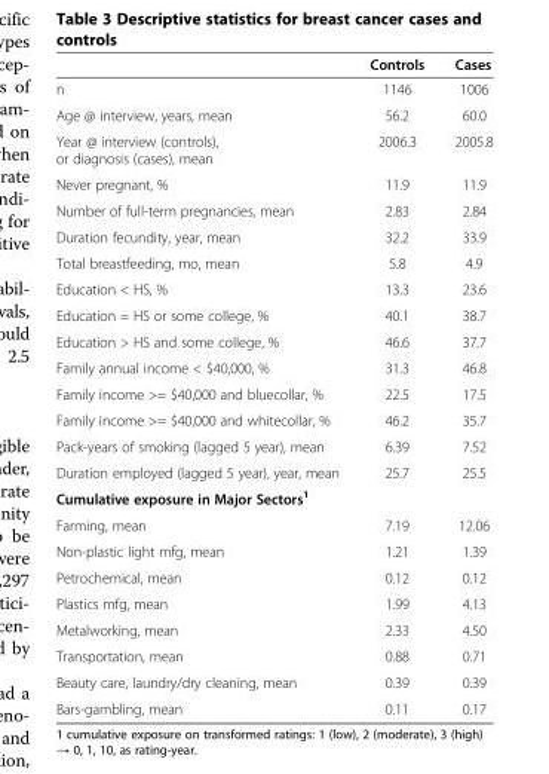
<table><thead><tr><td></td><td>Controls</td><td>Cases</td></tr></thead><tbody><tr><td>n</td><td>1146</td><td>1006</td></tr><tr><td>Age @ interview, years, mean</td><td>56.2</td><td>60.0</td></tr><tr><td>Year @ interview (controls), or diagnosis (cases), mean</td><td>2006.3</td><td>2005.8</td></tr><tr><td>Never pregnant, %</td><td>11.9</td><td>11.9</td></tr><tr><td>Number of full-term pregnancies, mean</td><td>2.83</td><td>2.84</td></tr><tr><td>Duration fecundity, year, mean</td><td>32.2</td><td>33.9</td></tr><tr><td>Total breastfeeding, mo, mean</td><td>5.8</td><td>4.9</td></tr><tr><td>Education &lt; HS, %</td><td>13.3</td><td>23.6</td></tr><tr><td>Education = HS or some college, %</td><td>40.1</td><td>38.7</td></tr><tr><td>Education &gt; HS and some college, %</td><td>46.6</td><td>37.7</td></tr><tr><td>Family annual income &lt; $40,000, %</td><td>31.3</td><td>46.8</td></tr><tr><td>Family income &gt;= $40,000 and bluecollar, %</td><td>22.5</td><td>17.5</td></tr><tr><td>Family income &gt;= $40,000 and whitecollar, %</td><td>46.2</td><td>35.7</td></tr><tr><td>Pack-years of smoking (lagged 5 year), mean</td><td>6.39</td><td>7.52</td></tr><tr><td>Duration employed (lagged 5 year), year, mean</td><td>25.7</td><td>25.5</td></tr><tr><td colspan="3">Cumulative exposure in Major Sectors<sup>1</sup></td></tr><tr><td>Farming, mean</td><td>7.19</td><td>12.06</td></tr><tr><td>Non-plastic light mfg, mean</td><td>1.21</td><td>1.39</td></tr><tr><td>Petrochemical, mean</td><td>0.12</td><td>0.12</td></tr><tr><td>Plastics mfg, mean</td><td>1.99</td><td>4.13</td></tr><tr><td>Metalworking, mean</td><td>2.33</td><td>4.50</td></tr><tr><td>Transportation, mean</td><td>0.88</td><td>0.71</td></tr><tr><td>Beauty care, laundry/dry cleaning, mean</td><td>0.39</td><td>0.39</td></tr><tr><td>Bars-gambling, mean</td><td>0.11</td><td>0.17</td></tr></tbody></table>